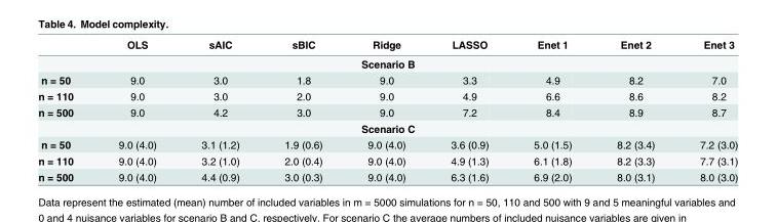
<table><thead><tr><td></td><td>OLS</td><td>sAIC</td><td>sBIC</td><td>Ridge</td><td>LASSO</td><td>Enet 1</td><td>Enet 2</td><td>Enet 3</td></tr></thead><tbody><tr><td colspan="9">Scenario B</td></tr><tr><td>n = 50</td><td>9.0</td><td>3.0</td><td>1.8</td><td>9.0</td><td>3.3</td><td>4.9</td><td>8.2</td><td>7.0</td></tr><tr><td>n = 110</td><td>9.0</td><td>3.0</td><td>2.0</td><td>9.0</td><td>4.9</td><td>6.6</td><td>8.6</td><td>8.2</td></tr><tr><td>n = 500</td><td>9.0</td><td>4.2</td><td>3.0</td><td>9.0</td><td>7.2</td><td>8.4</td><td>8.9</td><td>8.7</td></tr><tr><td colspan="9">Scenario C</td></tr><tr><td>n = 50</td><td>9.0 (4.0)</td><td>3.1 (1.2)</td><td>1.9 (0.6)</td><td>9.0 (4.0)</td><td>3.6 (0.9)</td><td>5.0 (1.5)</td><td>8.2 (3.4)</td><td>7.2 (3.0)</td></tr><tr><td>n = 110</td><td>9.0 (4.0)</td><td>3.2 (1.0)</td><td>2.0 (0.4)</td><td>9.0 (4.0)</td><td>4.9 (1.3)</td><td>6.1 (1.8)</td><td>8.2 (3.3)</td><td>7.7 (3.1)</td></tr><tr><td>n = 500</td><td>9.0 (4.0)</td><td>4.4 (0.9)</td><td>3.0 (0.3)</td><td>9.0 (4.0)</td><td>6.3 (1.6)</td><td>6.9 (2.0)</td><td>8.0 (3.1)</td><td>8.0 (3.0)</td></tr></tbody></table>